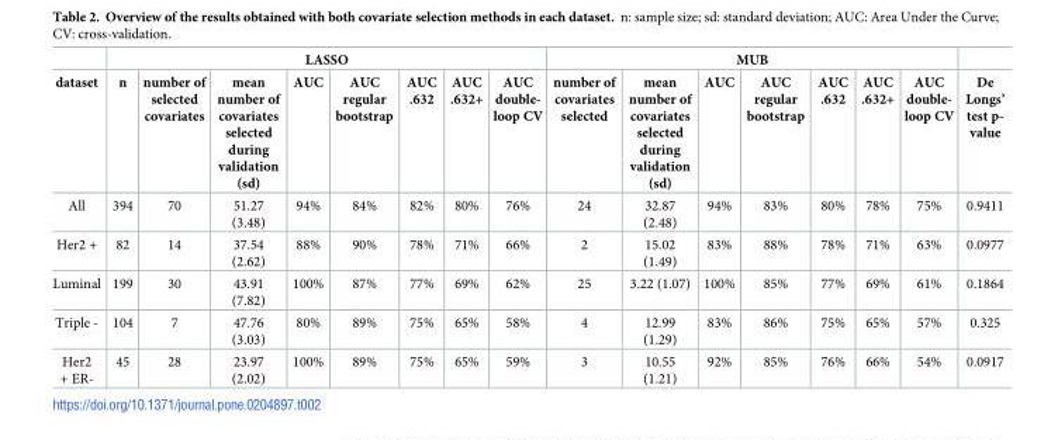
<table><thead><tr><td rowspan="2">dataset</td><td colspan="8">LASSO</td><td colspan="7">MUB</td><td rowspan="2">De Longs’ test p- value</td></tr><tr><td>n</td><td>number of selected covariates</td><td>mean number of covariates selected during validation (sd)</td><td>AUC</td><td>AUC regular bootstrap</td><td>AUC .632</td><td>AUC .632+</td><td>AUC double- loop CV</td><td>number of covariates selected</td><td>mean number of covariates selected during validation (sd)</td><td>AUC</td><td>AUC regular bootstrap</td><td>AUC .632</td><td>AUC .632+</td><td>AUC double- loop CV</td></tr></thead><tbody><tr><td>All</td><td>394</td><td>70</td><td>51.27 (3.48)</td><td>94%</td><td>84%</td><td>82%</td><td>80%</td><td>76%</td><td>24</td><td>32.87 (2.48)</td><td>94%</td><td>83%</td><td>80%</td><td>78%</td><td>75%</td><td>0.9411</td></tr><tr><td>Her2 +</td><td>82</td><td>14</td><td>37.54 (2.62)</td><td>88%</td><td>90%</td><td>78%</td><td>71%</td><td>66%</td><td>2</td><td>15.02 (1.49)</td><td>83%</td><td>88%</td><td>78%</td><td>71%</td><td>63%</td><td>0.0977</td></tr><tr><td>Luminal</td><td>199</td><td>30</td><td>43.91 (7.82)</td><td>100%</td><td>87%</td><td>77%</td><td>69%</td><td>62%</td><td>25</td><td>3.22 (1.07)</td><td>100%</td><td>85%</td><td>77%</td><td>69%</td><td>61%</td><td>0.1864</td></tr><tr><td>Triple -</td><td>104</td><td>7</td><td>47.76 (3.03)</td><td>80%</td><td>89%</td><td>75%</td><td>65%</td><td>58%</td><td>4</td><td>12.99 (1.29)</td><td>83%</td><td>86%</td><td>75%</td><td>65%</td><td>57%</td><td>0.325</td></tr><tr><td>Her2 + ER-</td><td>45</td><td>28</td><td>23.97 (2.02)</td><td>100%</td><td>89%</td><td>75%</td><td>65%</td><td>59%</td><td>3</td><td>10.55 (1.21)</td><td>92%</td><td>85%</td><td>76%</td><td>66%</td><td>54%</td><td>0.0917</td></tr></tbody></table>